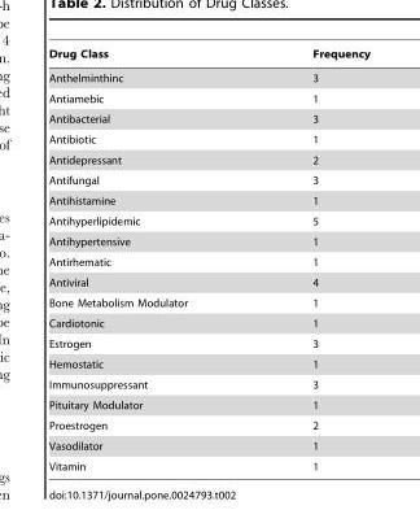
<table><thead><tr><td>Drug Class</td><td>Frequency</td></tr></thead><tbody><tr><td>Anthelminthinc</td><td>3</td></tr><tr><td>Antiamebic</td><td>1</td></tr><tr><td>Antibacterial</td><td>3</td></tr><tr><td>Antibiotic</td><td>1</td></tr><tr><td>Antidepressant</td><td>2</td></tr><tr><td>Antifungal</td><td>3</td></tr><tr><td>Antihistamine</td><td>1</td></tr><tr><td>Antihyperlipidemic</td><td>5</td></tr><tr><td>Antihypertensive</td><td>1</td></tr><tr><td>Antirhematic</td><td>1</td></tr><tr><td>Antiviral</td><td>4</td></tr><tr><td>Bone Metabolism Modulator</td><td>1</td></tr><tr><td>Cardiotonic</td><td>1</td></tr><tr><td>Estrogen</td><td>3</td></tr><tr><td>Hemostatic</td><td>1</td></tr><tr><td>Immunosuppressant</td><td>3</td></tr><tr><td>Pituitary Modulator</td><td>1</td></tr><tr><td>Proestrogen</td><td>2</td></tr><tr><td>Vasodilator</td><td>1</td></tr><tr><td>Vitamin</td><td>1</td></tr></tbody></table>